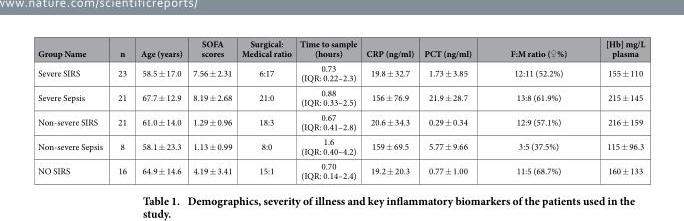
<table><thead><tr><td>Group Name</td><td>n</td><td>Age (years)</td><td>SOFA scores</td><td>Surgical: Medical ratio</td><td>Time to sample (hours)</td><td>CRP (ng/ml)</td><td>PCT (ng/ml)</td><td>F:M ratio (♀%)</td><td>[Hb] mg/L plasma</td></tr></thead><tbody><tr><td>Severe SIRS</td><td>23</td><td>58.5 ± 17.0</td><td>7.56 ± 2.31</td><td>6:17</td><td>0.73 (IQR: 0.22–2.3)</td><td>19.8 ± 32.7</td><td>1.73 ± 3.85</td><td>12:11 (52.2%)</td><td>155 ± 110</td></tr><tr><td>Severe Sepsis</td><td>21</td><td>67.7 ± 12.9</td><td>8.19 ± 2.68</td><td>21:0</td><td>0.88 (IQR: 0.33–2.5)</td><td>156 ± 76.9</td><td>21.9 ± 28.7</td><td>13:8 (61.9%)</td><td>215 ± 145</td></tr><tr><td>Non-severe SIRS</td><td>21</td><td>61.0 ± 14.0</td><td>1.29 ± 0.96</td><td>18:3</td><td>0.67 (IQR: 0.41–2.8)</td><td>20.6 ± 34.3</td><td>0.29 ± 0.34</td><td>12:9 (57.1%)</td><td>216 ± 159</td></tr><tr><td>Non-severe Sepsis</td><td>8</td><td>58.1 ± 23.3</td><td>1.13 ± 0.99</td><td>8:0</td><td>1.6 (IQR: 0.40–4.2)</td><td>159 ± 69.5</td><td>5.77 ± 9.66</td><td>3:5 (37.5%)</td><td>115 ± 96.3</td></tr><tr><td>NO SIRS</td><td>16</td><td>64.9 ± 14.6</td><td>4.19 ± 3.41</td><td>15:1</td><td>0.70 (IQR: 0.14–2.4)</td><td>19.2 ± 20.3</td><td>0.77 ± 1.00</td><td>11:5 (68.7%)</td><td>160 ± 133</td></tr></tbody></table>